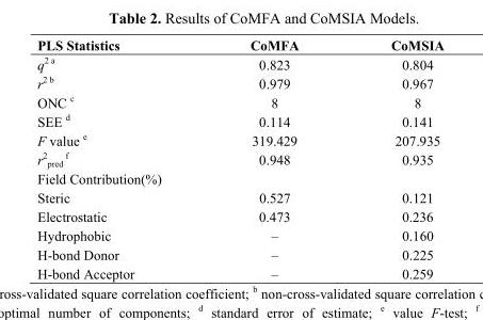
<table><thead><tr><td>PLS Statistics</td><td>CoMFA</td><td>CoMSIA</td></tr></thead><tbody><tr><td>q<sup>2 a</sup></td><td>0.823</td><td>0.804</td></tr><tr><td>r<sup>2 b</sup></td><td>0.979</td><td>0.967</td></tr><tr><td>ONC <sup>c</sup></td><td>8</td><td>8</td></tr><tr><td>SEE <sup>d</sup></td><td>0.114</td><td>0.141</td></tr><tr><td>F value <sup>e</sup></td><td>319.429</td><td>207.935</td></tr><tr><td>r<sup>2</sup> <sub>pred</sub> <sup>f</sup></td><td>0.948</td><td>0.935</td></tr><tr><td colspan="3">Field Contribution(%)</td></tr><tr><td>Steric</td><td>0.527</td><td>0.121</td></tr><tr><td>Electrostatic</td><td>0.473</td><td>0.236</td></tr><tr><td>Hydrophobic</td><td>–</td><td>0.160</td></tr><tr><td>H-bond Donor</td><td>–</td><td>0.225</td></tr><tr><td>H-bond Acceptor</td><td>–</td><td>0.259</td></tr></tbody></table>